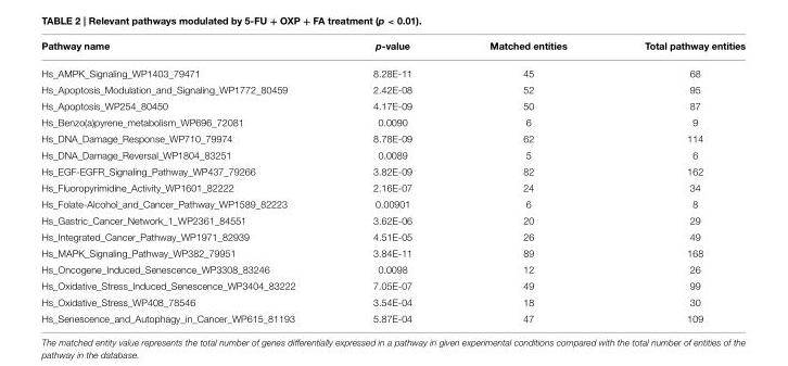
<table><thead><tr><td>Pathway name</td><td>p-value</td><td>Matched entities</td><td>Total pathway entities</td></tr></thead><tbody><tr><td>Hs_AMPK_Signaling_WP1403_79471</td><td>8.28E-11</td><td>45</td><td>68</td></tr><tr><td>Hs_Apoptosis_Modulation_and_Signaling_WP1772_80459</td><td>2.42E-08</td><td>52</td><td>95</td></tr><tr><td>Hs_Apoptosis_WP254_80450</td><td>4.17E-09</td><td>50</td><td>87</td></tr><tr><td>Hs_Benzo(a)pyrene_metabolism_WP696_72081</td><td>0.0090</td><td>6</td><td>9</td></tr><tr><td>Hs_DNA_Damage_Response_WP710_79974</td><td>8.78E-09</td><td>62</td><td>114</td></tr><tr><td>Hs_DNA_Damage_Reversal_WP1804_83251</td><td>0.0089</td><td>5</td><td>6</td></tr><tr><td>Hs_EGF-EGFR_Signaling_Pathway_WP437_79266</td><td>3.82E-09</td><td>82</td><td>162</td></tr><tr><td>Hs_Fluoropyrimidine_Activity_WP1601_82222</td><td>2.16E-07</td><td>24</td><td>34</td></tr><tr><td>Hs_Folate-Alcohol_and_Cancer_Pathway_WP1589_82223</td><td>0.00901</td><td>6</td><td>8</td></tr><tr><td>Hs_Gastric_Cancer_Network_1_WP2361_84551</td><td>3.62E-06</td><td>20</td><td>29</td></tr><tr><td>Hs_Integrated_Cancer_Pathway_WP1971_82939</td><td>4.51E-05</td><td>26</td><td>49</td></tr><tr><td>Hs_MAPK_Signaling_Pathway_WP382_79951</td><td>3.84E-11</td><td>89</td><td>168</td></tr><tr><td>Hs_Oncogene_Induced_Senescence_WP3308_83246</td><td>0.0098</td><td>12</td><td>26</td></tr><tr><td>Hs_Oxidative_Stress_Induced_Senescence_WP3404_83222</td><td>7.05E-07</td><td>49</td><td>99</td></tr><tr><td>Hs_Oxidative_Stress_WP408_78546</td><td>3.54E-04</td><td>18</td><td>30</td></tr><tr><td>Hs_Senescence_and_Autophagy_in_Cancer_WP615_81193</td><td>5.87E-04</td><td>47</td><td>109</td></tr></tbody></table>